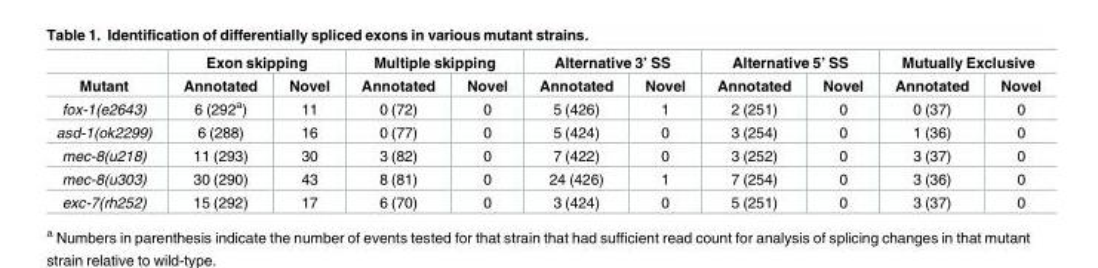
<table><thead><tr><td rowspan="2">Mutant</td><td colspan="2">Exon skipping</td><td colspan="2">Multiple skipping</td><td colspan="2">Alternative 3’ SS</td><td colspan="2">Alternative 5’ SS</td><td colspan="2">Mutually Exclusive</td></tr><tr><td>Annotated</td><td>Novel</td><td>Annotated</td><td>Novel</td><td>Annotated</td><td>Novel</td><td>Annotated</td><td>Novel</td><td>Annotated</td><td>Novel</td></tr></thead><tbody><tr><td>fox-1(e2643)</td><td>6 (292<sup>a</sup>)</td><td>11</td><td>0 (72)</td><td>0</td><td>5 (426)</td><td>1</td><td>2 (251)</td><td>0</td><td>0 (37)</td><td>0</td></tr><tr><td>asd-1(ok2299)</td><td>6 (288)</td><td>16</td><td>0 (77)</td><td>0</td><td>5 (424)</td><td>0</td><td>3 (254)</td><td>0</td><td>1 (36)</td><td>0</td></tr><tr><td>mec-8(u218)</td><td>11 (293)</td><td>30</td><td>3 (82)</td><td>0</td><td>7 (422)</td><td>0</td><td>3 (252)</td><td>0</td><td>3 (37)</td><td>0</td></tr><tr><td>mec-8(u303)</td><td>30 (290)</td><td>43</td><td>8 (81)</td><td>0</td><td>24 (426)</td><td>1</td><td>7 (254)</td><td>0</td><td>3 (36)</td><td>0</td></tr><tr><td>exc-7(rh252)</td><td>15 (292)</td><td>17</td><td>6 (70)</td><td>0</td><td>3 (424)</td><td>0</td><td>5 (251)</td><td>0</td><td>3 (37)</td><td>0</td></tr></tbody></table>